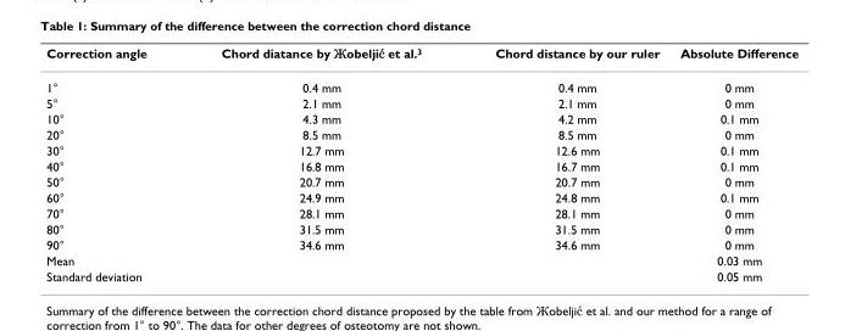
<table><thead><tr><td>Correction angle</td><td>Chord diatance by Жobeljić et al.3</td><td>Chord distance by our ruler</td><td>Absolute Difference</td></tr></thead><tbody><tr><td>1°</td><td>0.4 mm</td><td>0.4 mm</td><td>0 mm</td></tr><tr><td>5°</td><td>2.1 mm</td><td>2.1 mm</td><td>0 mm</td></tr><tr><td>10°</td><td>4.3 mm</td><td>4.2 mm</td><td>0.1 mm</td></tr><tr><td>20°</td><td>8.5 mm</td><td>8.5 mm</td><td>0 mm</td></tr><tr><td>30°</td><td>12.7 mm</td><td>12.6 mm</td><td>0.1 mm</td></tr><tr><td>40°</td><td>16.8 mm</td><td>16.7 mm</td><td>0.1 mm</td></tr><tr><td>50°</td><td>20.7 mm</td><td>20.7 mm</td><td>0 mm</td></tr><tr><td>60°</td><td>24.9 mm</td><td>24.8 mm</td><td>0.1 mm</td></tr><tr><td>70°</td><td>28.1 mm</td><td>28.1 mm</td><td>0 mm</td></tr><tr><td>80°</td><td>31.5 mm</td><td>31.5 mm</td><td>0 mm</td></tr><tr><td>90°</td><td>34.6 mm</td><td>34.6 mm</td><td>0 mm</td></tr><tr><td>Mean</td><td></td><td></td><td>0.03 mm</td></tr><tr><td>Standard deviation</td><td></td><td></td><td>0.05 mm</td></tr></tbody></table>